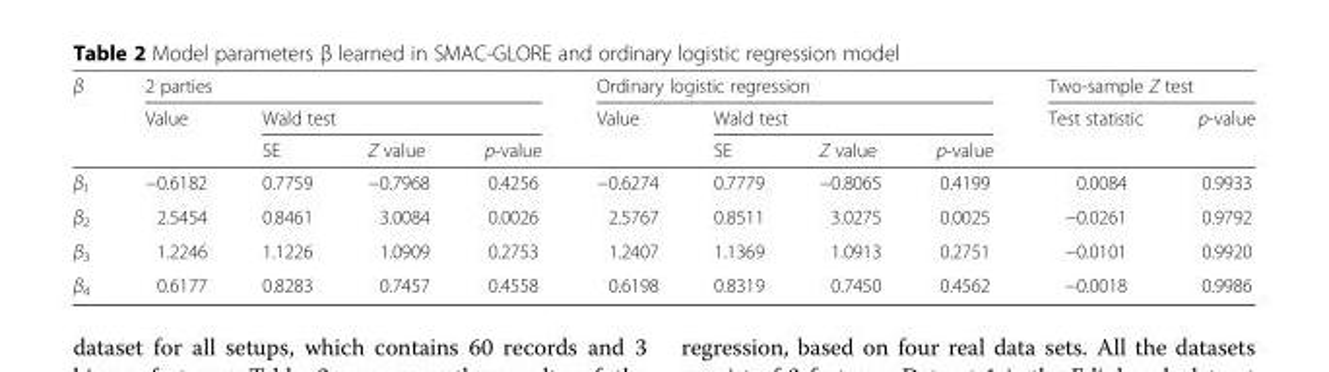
<table><thead><tr><td rowspan="3">β</td><td colspan="4">2 parties</td><td colspan="4">Ordinary logistic regression</td><td colspan="2">Two-sample Z test</td></tr><tr><td rowspan="2">Value</td><td colspan="3">Wald test</td><td rowspan="2">Value</td><td colspan="3">Wald test</td><td rowspan="2">Test statistic</td><td rowspan="2">p-value</td></tr><tr><td>SE</td><td>Z value</td><td>p-value</td><td>SE</td><td>Z value</td><td>p-value</td></tr></thead><tbody><tr><td>β<sub>1</sub></td><td>−0.6182</td><td>0.7759</td><td>−0.7968</td><td>0.4256</td><td>−0.6274</td><td>0.7779</td><td>−0.8065</td><td>0.4199</td><td>0.0084</td><td>0.9933</td></tr><tr><td>β<sub>2</sub></td><td>2.5454</td><td>0.8461</td><td>3.0084</td><td>0.0026</td><td>2.5767</td><td>0.8511</td><td>3.0275</td><td>0.0025</td><td>−0.0261</td><td>0.9792</td></tr><tr><td>β<sub>3</sub></td><td>1.2246</td><td>1.1226</td><td>1.0909</td><td>0.2753</td><td>1.2407</td><td>1.1369</td><td>1.0913</td><td>0.2751</td><td>−0.0101</td><td>0.9920</td></tr><tr><td>β<sub>4</sub></td><td>0.6177</td><td>0.8283</td><td>0.7457</td><td>0.4558</td><td>0.6198</td><td>0.8319</td><td>0.7450</td><td>0.4562</td><td>−0.0018</td><td>0.9986</td></tr></tbody></table>